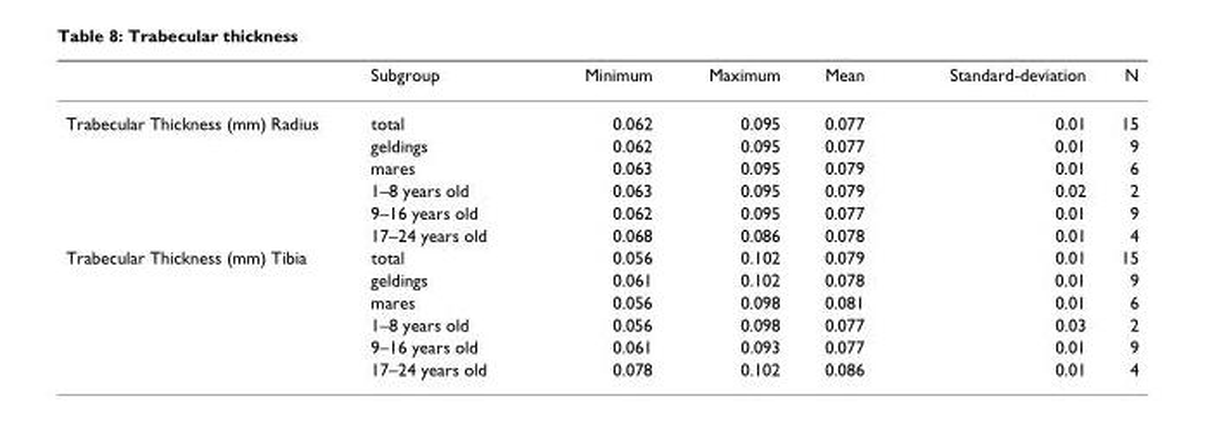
<table><thead><tr><td></td><td>Subgroup</td><td>Minimum</td><td>Maximum</td><td>Mean</td><td>Standard-deviation</td><td>N</td></tr></thead><tbody><tr><td rowspan="6">Trabecular Thickness (mm) Radius</td><td>total</td><td>0.062</td><td>0.095</td><td>0.077</td><td>0.01</td><td>15</td></tr><tr><td>geldings</td><td>0.062</td><td>0.095</td><td>0.077</td><td>0.01</td><td>9</td></tr><tr><td>mares</td><td>0.063</td><td>0.095</td><td>0.079</td><td>0.01</td><td>6</td></tr><tr><td>1–8 years old</td><td>0.063</td><td>0.095</td><td>0.079</td><td>0.02</td><td>2</td></tr><tr><td>9–16 years old</td><td>0.062</td><td>0.095</td><td>0.077</td><td>0.01</td><td>9</td></tr><tr><td>17–24 years old</td><td>0.068</td><td>0.086</td><td>0.078</td><td>0.01</td><td>4</td></tr><tr><td rowspan="6">Trabecular Thickness (mm) Tibia</td><td>total</td><td>0.056</td><td>0.102</td><td>0.079</td><td>0.01</td><td>15</td></tr><tr><td>geldings</td><td>0.061</td><td>0.102</td><td>0.078</td><td>0.01</td><td>9</td></tr><tr><td>mares</td><td>0.056</td><td>0.098</td><td>0.081</td><td>0.01</td><td>6</td></tr><tr><td>1–8 years old</td><td>0.056</td><td>0.098</td><td>0.077</td><td>0.03</td><td>2</td></tr><tr><td>9–16 years old</td><td>0.061</td><td>0.093</td><td>0.077</td><td>0.01</td><td>9</td></tr><tr><td>17–24 years old</td><td>0.078</td><td>0.102</td><td>0.086</td><td>0.01</td><td>4</td></tr></tbody></table>